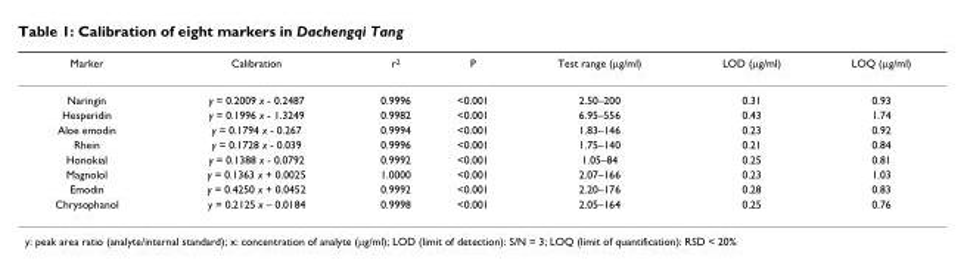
<table><thead><tr><td>Marker</td><td>Calibration</td><td>r<sup>2</sup></td><td>P</td><td>Test range (µg/ml)</td><td>LOD (µg/ml)</td><td>LOQ (µg/ml)</td></tr></thead><tbody><tr><td>Naringin</td><td>y = 0.2009 x - 0.2487</td><td>0.9996</td><td>&lt;0.001</td><td>2.50–200</td><td>0.31</td><td>0.93</td></tr><tr><td>Hesperidin</td><td>y = 0.1996 x - 1.3249</td><td>0.9982</td><td>&lt;0.001</td><td>6.95–556</td><td>0.43</td><td>1.74</td></tr><tr><td>Aloe emodin</td><td>y = 0.1794 x - 0.267</td><td>0.9994</td><td>&lt;0.001</td><td>1.83–146</td><td>0.23</td><td>0.92</td></tr><tr><td>Rhein</td><td>y = 0.1728 x - 0.039</td><td>0.9996</td><td>&lt;0.001</td><td>1.75–140</td><td>0.21</td><td>0.84</td></tr><tr><td>Honokial</td><td>y = 0.1388 x - 0.0792</td><td>0.9992</td><td>&lt;0.001</td><td>1.05–84</td><td>0.25</td><td>0.81</td></tr><tr><td>Magnolol</td><td>y = 0.1363 x + 0.0025</td><td>1.0000</td><td>&lt;0.001</td><td>2.07–166</td><td>0.23</td><td>1.03</td></tr><tr><td>Emodin</td><td>y = 0.4250 x + 0.0452</td><td>0.9992</td><td>&lt;0.001</td><td>2.20–176</td><td>0.28</td><td>0.83</td></tr><tr><td>Chrysophanol</td><td>y = 0.2125 x – 0.0184</td><td>0.9998</td><td>&lt;0.001</td><td>2.05–164</td><td>0.25</td><td>0.76</td></tr></tbody></table>